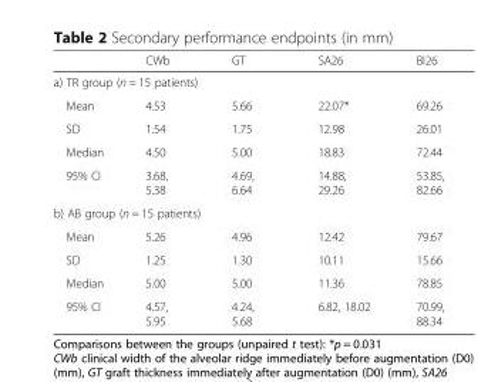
<table><thead><tr><td></td><td>CWb</td><td>GT</td><td>SA26</td><td>BI26</td></tr></thead><tbody><tr><td colspan="5">a) TR group (n = 15 patients)</td></tr><tr><td>Mean</td><td>4.53</td><td>5.66</td><td>22.07*</td><td>69.26</td></tr><tr><td>SD</td><td>1.54</td><td>1.75</td><td>12.98</td><td>26.01</td></tr><tr><td>Median</td><td>4.50</td><td>5.00</td><td>18.83</td><td>72.44</td></tr><tr><td>95% CI</td><td>3.68, 5.38</td><td>4.69, 6.64</td><td>14.88, 29.26</td><td>53.85, 82.66</td></tr><tr><td colspan="5">b) AB group (n = 15 patients)</td></tr><tr><td>Mean</td><td>5.26</td><td>4.96</td><td>12.42</td><td>79.67</td></tr><tr><td>SD</td><td>1.25</td><td>1.30</td><td>10.11</td><td>15.66</td></tr><tr><td>Median</td><td>5.00</td><td>5.00</td><td>11.36</td><td>78.85</td></tr><tr><td>95% CI</td><td>4.57, 5.95</td><td>4.24, 5.68</td><td>6.82, 18.02</td><td>70.99, 88.34</td></tr></tbody></table>